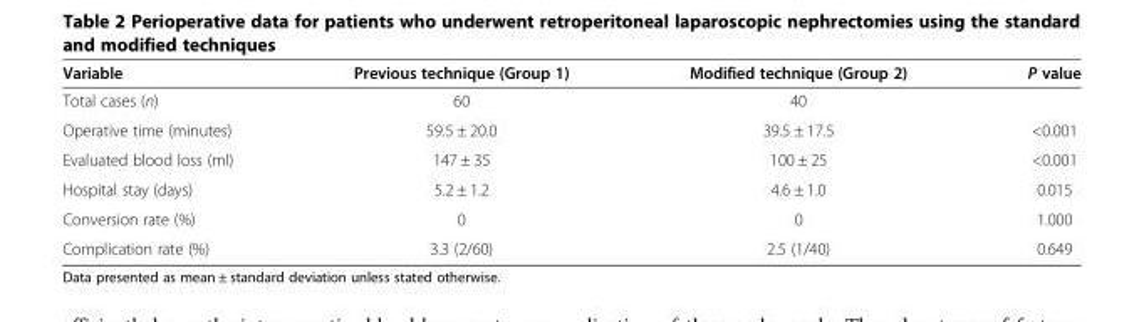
<table><thead><tr><td>Variable</td><td>Previous technique (Group 1)</td><td>Modified technique (Group 2)</td><td>P value</td></tr></thead><tbody><tr><td>Total cases (n)</td><td>60</td><td>40</td><td></td></tr><tr><td>Operative time (minutes)</td><td>59.5 ± 20.0</td><td>39.5 ± 17.5</td><td>&lt;0.001</td></tr><tr><td>Evaluated blood loss (ml)</td><td>147 ± 35</td><td>100 ± 25</td><td>&lt;0.001</td></tr><tr><td>Hospital stay (days)</td><td>5.2 ± 1.2</td><td>4.6 ± 1.0</td><td>0.015</td></tr><tr><td>Conversion rate (%)</td><td>0</td><td>0</td><td>1.000</td></tr><tr><td>Complication rate (%)</td><td>3.3 (2/60)</td><td>2.5 (1/40)</td><td>0.649</td></tr></tbody></table>